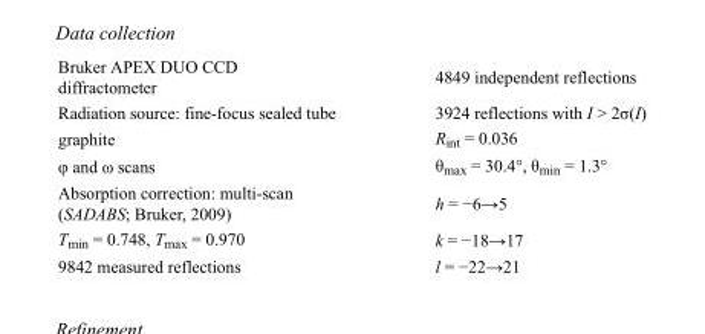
<table><tbody><tr><td>Bruker APEX DUO CCD diffractometer</td><td>4849 independent reflections</td></tr><tr><td>Radiation source: fine-focus sealed tube</td><td>3924 reflections with I &gt; 2σ(I)</td></tr><tr><td>graphite</td><td>R<sub>int</sub> = 0.036</td></tr><tr><td>φ and ω scans</td><td>θ<sub>max</sub> = 30.4°, θ<sub>min</sub> = 1.3°</td></tr><tr><td>Absorption correction: multi-scan (SADABS; Bruker, 2009)</td><td>h = −6→5</td></tr><tr><td>T<sub>min</sub> = 0.748, T<sub>max</sub> = 0.970</td><td>k = −18→17</td></tr><tr><td>9842 measured reflections</td><td>l = −22→21</td></tr></tbody></table>